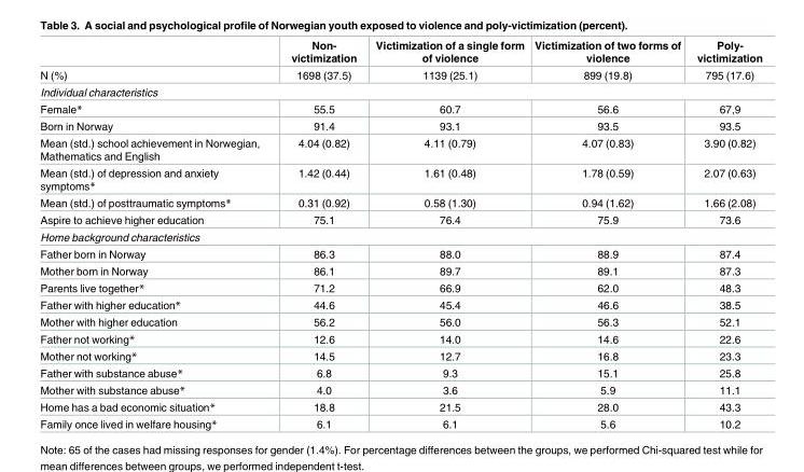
<table><thead><tr><td></td><td>Non- victimization</td><td>Victimization of a single form of violence</td><td>Victimization of two forms of violence</td><td>Poly- victimization</td></tr></thead><tbody><tr><td>N (%)</td><td>1698 (37.5)</td><td>1139 (25.1)</td><td>899 (19.8)</td><td>795 (17.6)</td></tr><tr><td colspan="5">Individual characteristics</td></tr><tr><td>Female*</td><td>55.5</td><td>60.7</td><td>56.6</td><td>67,9</td></tr><tr><td>Born in Norway</td><td>91.4</td><td>93.1</td><td>93.5</td><td>93.5</td></tr><tr><td>Mean (std.) school achievement in Norwegian, Mathematics and English</td><td>4.04 (0.82)</td><td>4.11 (0.79)</td><td>4.07 (0.83)</td><td>3.90 (0.82)</td></tr><tr><td>Mean (std.) of depression and anxiety symptoms*</td><td>1.42 (0.44)</td><td>1.61 (0.48)</td><td>1.78 (0.59)</td><td>2.07 (0.63)</td></tr><tr><td>Mean (std.) of posttraumatic symptoms*</td><td>0.31 (0.92)</td><td>0.58 (1.30)</td><td>0.94 (1.62)</td><td>1.66 (2.08)</td></tr><tr><td>Aspire to achieve higher education</td><td>75.1</td><td>76.4</td><td>75.9</td><td>73.6</td></tr><tr><td colspan="5">Home background characteristics</td></tr><tr><td>Father born in Norway</td><td>86.3</td><td>88.0</td><td>88.9</td><td>87.4</td></tr><tr><td>Mother born in Norway</td><td>86.1</td><td>89.7</td><td>89.1</td><td>87.3</td></tr><tr><td>Parents live together*</td><td>71.2</td><td>66.9</td><td>62.0</td><td>48.3</td></tr><tr><td>Father with higher education*</td><td>44.6</td><td>45.4</td><td>46.6</td><td>38.5</td></tr><tr><td>Mother with higher education</td><td>56.2</td><td>56.0</td><td>56.3</td><td>52.1</td></tr><tr><td>Father not working*</td><td>12.6</td><td>14.0</td><td>14.6</td><td>22.6</td></tr><tr><td>Mother not working*</td><td>14.5</td><td>12.7</td><td>16.8</td><td>23.3</td></tr><tr><td>Father with substance abuse*</td><td>6.8</td><td>9.3</td><td>15.1</td><td>25.8</td></tr><tr><td>Mother with substance abuse*</td><td>4.0</td><td>3.6</td><td>5.9</td><td>11.1</td></tr><tr><td>Home has a bad economic situation*</td><td>18.8</td><td>21.5</td><td>28.0</td><td>43.3</td></tr><tr><td>Family once lived in welfare housing*</td><td>6.1</td><td>6.1</td><td>5.6</td><td>10.2</td></tr></tbody></table>